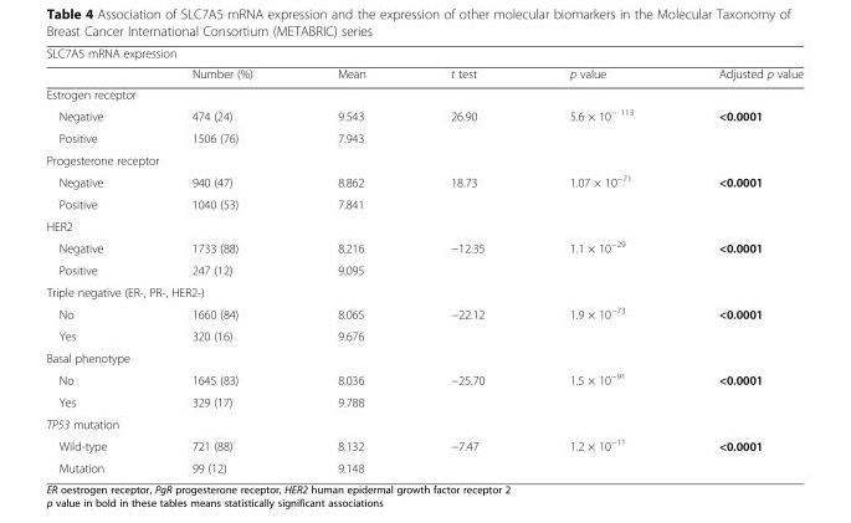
<table><thead><tr><td colspan="6">SLC7A5 mRNA expression</td></tr><tr><td></td><td>Number (%)</td><td>Mean</td><td>t test</td><td>p value</td><td>Adjusted p value</td></tr></thead><tbody><tr><td colspan="6">Estrogen receptor</td></tr><tr><td>Negative</td><td>474 (24)</td><td>9.543</td><td rowspan="2">26.90</td><td rowspan="2">5.6 × 10<sup>− 113</sup></td><td rowspan="2">&lt;0.0001</td></tr><tr><td>Positive</td><td>1506 (76)</td><td>7.943</td></tr><tr><td colspan="6">Progesterone receptor</td></tr><tr><td>Negative</td><td>940 (47)</td><td>8.862</td><td rowspan="2">18.73</td><td rowspan="2">1.07 × 10<sup>−71</sup></td><td rowspan="2">&lt;0.0001</td></tr><tr><td>Positive</td><td>1040 (53)</td><td>7.841</td></tr><tr><td colspan="6">HER2</td></tr><tr><td>Negative</td><td>1733 (88)</td><td>8.216</td><td rowspan="2">−12.35</td><td rowspan="2">1.1 × 10<sup>−29</sup></td><td rowspan="2">&lt;0.0001</td></tr><tr><td>Positive</td><td>247 (12)</td><td>9.095</td></tr><tr><td colspan="6">Triple negative (ER-, PR-, HER2-)</td></tr><tr><td>No</td><td>1660 (84)</td><td>8.065</td><td rowspan="2">−22.12</td><td rowspan="2">1.9 × 10<sup>−73</sup></td><td rowspan="2">&lt;0.0001</td></tr><tr><td>Yes</td><td>320 (16)</td><td>9.676</td></tr><tr><td colspan="6">Basal phenotype</td></tr><tr><td>No</td><td>1645 (83)</td><td>8.036</td><td rowspan="2">−25.70</td><td rowspan="2">1.5 × 10<sup>−91</sup></td><td rowspan="2">&lt;0.0001</td></tr><tr><td>Yes</td><td>329 (17)</td><td>9.788</td></tr><tr><td colspan="6">TP53 mutation</td></tr><tr><td>Wild-type</td><td>721 (88)</td><td>8.132</td><td rowspan="2">−7.47</td><td rowspan="2">1.2 × 10<sup>−11</sup></td><td rowspan="2">&lt;0.0001</td></tr><tr><td>Mutation</td><td>99 (12)</td><td>9.148</td></tr></tbody></table>